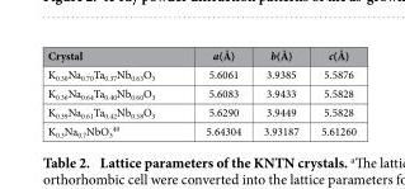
<table><thead><tr><td>Crystal</td><td>a(Å)</td><td>b(Å)</td><td>c(Å)</td></tr></thead><tbody><tr><td>K<sub>0.30</sub>Na<sub>0.70</sub>Ta<sub>0.37</sub>Nb<sub>0.63</sub>O<sub>3</sub></td><td>5.6061</td><td>3.9385</td><td>5.5876</td></tr><tr><td>K<sub>0.36</sub>Na<sub>0.64</sub>Ta<sub>0.40</sub>Nb<sub>0.60</sub>O<sub>3</sub></td><td>5.6083</td><td>3.9433</td><td>5.5828</td></tr><tr><td>K<sub>0.39</sub>Na<sub>0.61</sub>Ta<sub>0.42</sub>Nb<sub>0.58</sub>O<sub>3</sub></td><td>5.6290</td><td>3.9449</td><td>5.5828</td></tr><tr><td>K<sub>0.3</sub>Na<sub>0.7</sub>NbO<sub>3</sub> <sup>40</sup></td><td>5.64304</td><td>3.93187</td><td>5.61260</td></tr></tbody></table>